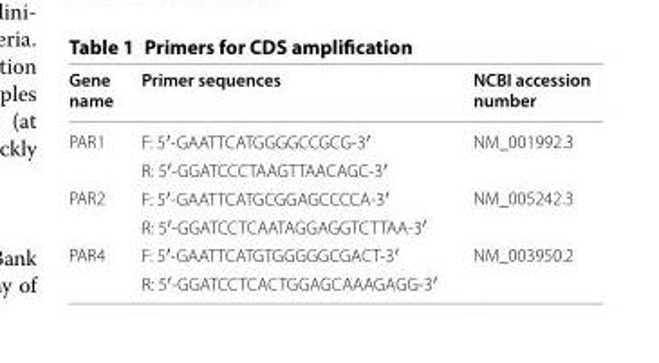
<table><thead><tr><td>Gene name</td><td>Primer sequences</td><td>NCBI accession number</td></tr></thead><tbody><tr><td rowspan="2">PAR1</td><td>F: 5′-GAA TTC ATG GGG CCGCG-3′</td><td rowspan="2">NM_001992.3</td></tr><tr><td>R: 5′-GGA TCC CTA AGT TAA CAG C-3′</td></tr><tr><td rowspan="2">PAR2</td><td>F: 5′-GAA TTC ATG CGG AGC CCC A-3′</td><td rowspan="2">NM_005242.3</td></tr><tr><td>R: 5′-GGA TCC TCA ATA GGA GGT CTTAA-3′</td></tr><tr><td rowspan="2">PAR4</td><td>F: 5′-GAA TTC ATG TGG GGG CGA CT-3′</td><td rowspan="2">NM_003950.2</td></tr><tr><td>R: 5′-GGA TCC TCA CTG GAG CAA AGAGG-3′</td></tr></tbody></table>